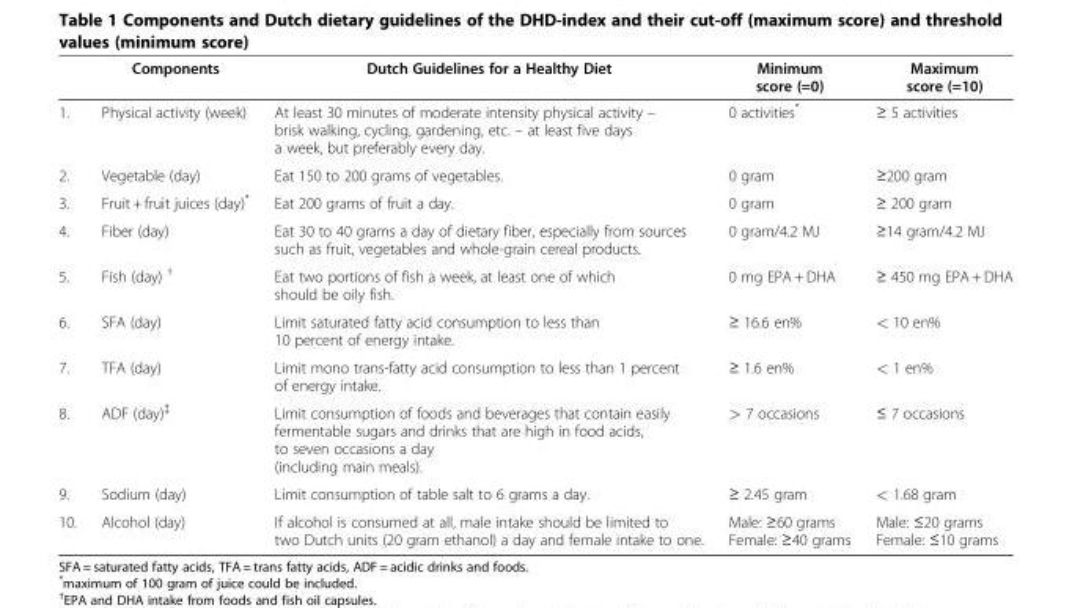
<table><thead><tr><td></td><td>Components</td><td>Dutch Guidelines for a Healthy Diet</td><td>Minimum score (=0)</td><td>Maximum score (=10)</td></tr></thead><tbody><tr><td>1.</td><td>Physical activity (week)</td><td>At least 30 minutes of moderate intensity physical activity – brisk walking, cycling, gardening, etc. – at least five days a week, but preferably every day.</td><td>0 activities*</td><td>≥ 5 activities</td></tr><tr><td>2.</td><td>Vegetable (day)</td><td>Eat 150 to 200 grams of vegetables.</td><td>0 gram</td><td>≥200 gram</td></tr><tr><td>3.</td><td>Fruit + fruit juices (day)*</td><td>Eat 200 grams of fruit a day.</td><td>0 gram</td><td>≥ 200 gram</td></tr><tr><td>4.</td><td>Fiber (day)</td><td>Eat 30 to 40 grams a day of dietary fiber, especially from sources such as fruit, vegetables and whole-grain cereal products.</td><td>0 gram/4.2 MJ</td><td>≥14 gram/4.2 MJ</td></tr><tr><td>5.</td><td>Fish (day) <sup>†</sup></td><td>Eat two portions of fish a week, at least one of which should be oily fish.</td><td>0 mg EPA + DHA</td><td>≥ 450 mg EPA + DHA</td></tr><tr><td>6.</td><td>SFA (day)</td><td>Limit saturated fatty acid consumption to less than 10 percent of energy intake.</td><td>≥ 16.6 en%</td><td>&lt; 10 en%</td></tr><tr><td>7.</td><td>TFA (day)</td><td>Limit mono trans-fatty acid consumption to less than 1 percent of energy intake.</td><td>≥ 1.6 en%</td><td>&lt; 1 en%</td></tr><tr><td>8.</td><td>ADF (day)<sup>‡</sup></td><td>Limit consumption of foods and beverages that contain easily fermentable sugars and drinks that are high in food acids, to seven occasions a day (including main meals).</td><td>&gt; 7 occasions</td><td>≤ 7 occasions</td></tr><tr><td>9.</td><td>Sodium (day)</td><td>Limit consumption of table salt to 6 grams a day.</td><td>≥ 2.45 gram</td><td>&lt; 1.68 gram</td></tr><tr><td>10.</td><td>Alcohol (day)</td><td>If alcohol is consumed at all, male intake should be limited to two Dutch units (20 gram ethanol) a day and female intake to one.</td><td>Male: ≥60 grams Female: ≥40 grams</td><td>Male: ≤20 grams Female: ≤10 grams</td></tr></tbody></table>